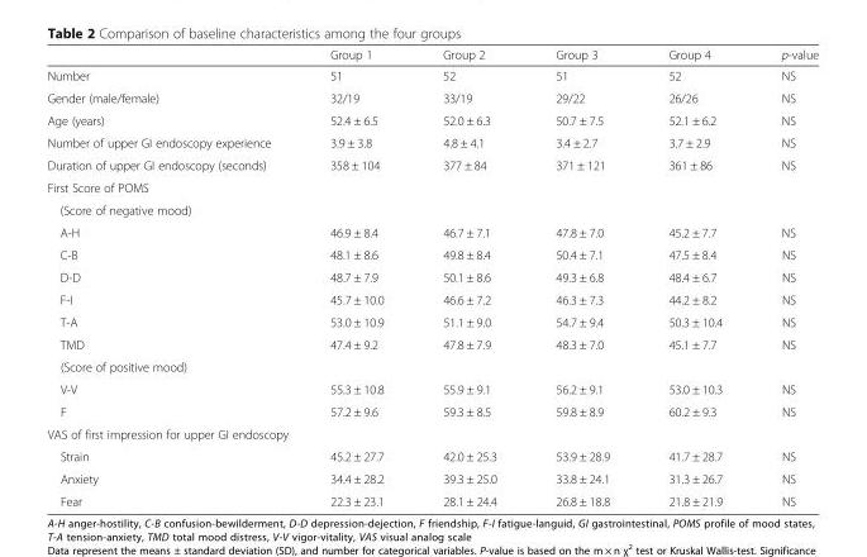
<table><thead><tr><td></td><td>Group 1</td><td>Group 2</td><td>Group 3</td><td>Group 4</td><td>p-value</td></tr></thead><tbody><tr><td>Number</td><td>51</td><td>52</td><td>51</td><td>52</td><td>NS</td></tr><tr><td>Gender (male/female)</td><td>32/19</td><td>33/19</td><td>29/22</td><td>26/26</td><td>NS</td></tr><tr><td>Age (years)</td><td>52.4 ± 6.5</td><td>52.0 ± 6.3</td><td>50.7 ± 7.5</td><td>52.1 ± 6.2</td><td>NS</td></tr><tr><td>Number of upper GI endoscopy experience</td><td>3.9 ± 3.8</td><td>4.8 ± 4.1</td><td>3.4 ± 2.7</td><td>3.7 ± 2.9</td><td>NS</td></tr><tr><td>Duration of upper GI endoscopy (seconds)</td><td>358 ± 104</td><td>377 ± 84</td><td>371 ± 121</td><td>361 ± 86</td><td>NS</td></tr><tr><td colspan="6">First Score of POMS</td></tr><tr><td colspan="6">(Score of negative mood)</td></tr><tr><td>A-H</td><td>46.9 ± 8.4</td><td>46.7 ± 7.1</td><td>47.8 ± 7.0</td><td>45.2 ± 7.7</td><td>NS</td></tr><tr><td>C-B</td><td>48.1 ± 8.6</td><td>49.8 ± 8.4</td><td>50.4 ± 7.1</td><td>47.5 ± 8.4</td><td>NS</td></tr><tr><td>D-D</td><td>48.7 ± 7.9</td><td>50.1 ± 8.6</td><td>49.3 ± 6.8</td><td>48.4 ± 6.7</td><td>NS</td></tr><tr><td>F-I</td><td>45.7 ± 10.0</td><td>46.6 ± 7.2</td><td>46.3 ± 7.3</td><td>44.2 ± 8.2</td><td>NS</td></tr><tr><td>T-A</td><td>53.0 ± 10.9</td><td>51.1 ± 9.0</td><td>54.7 ± 9.4</td><td>50.3 ± 10.4</td><td>NS</td></tr><tr><td>TMD</td><td>47.4 ± 9.2</td><td>47.8 ± 7.9</td><td>48.3 ± 7.0</td><td>45.1 ± 7.7</td><td>NS</td></tr><tr><td colspan="6">(Score of positive mood)</td></tr><tr><td>V-V</td><td>55.3 ± 10.8</td><td>55.9 ± 9.1</td><td>56.2 ± 9.1</td><td>53.0 ± 10.3</td><td>NS</td></tr><tr><td>F</td><td>57.2 ± 9.6</td><td>59.3 ± 8.5</td><td>59.8 ± 8.9</td><td>60.2 ± 9.3</td><td>NS</td></tr><tr><td colspan="6">VAS of first impression for upper GI endoscopy</td></tr><tr><td>Strain</td><td>45.2 ± 27.7</td><td>42.0 ± 25.3</td><td>53.9 ± 28.9</td><td>41.7 ± 28.7</td><td>NS</td></tr><tr><td>Anxiety</td><td>34.4 ± 28.2</td><td>39.3 ± 25.0</td><td>33.8 ± 24.1</td><td>31.3 ± 26.7</td><td>NS</td></tr><tr><td>Fear</td><td>22.3 ± 23.1</td><td>28.1 ± 24.4</td><td>26.8 ± 18.8</td><td>21.8 ± 21.9</td><td>NS</td></tr></tbody></table>